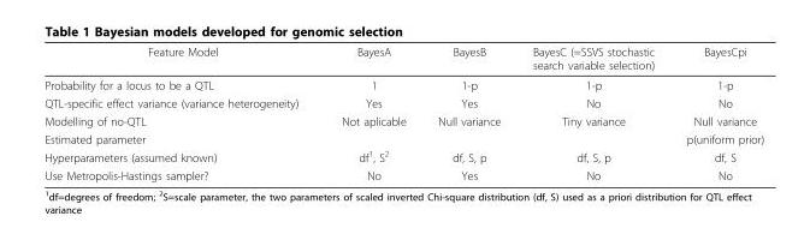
<table><thead><tr><td>Feature Model</td><td>BayesA</td><td>BayesB</td><td>BayesC (=SSVS stochastic search variable selection)</td><td>BayesCpi</td></tr></thead><tbody><tr><td>Probability for a locus to be a QTL</td><td>1</td><td>1-p</td><td>1-p</td><td>1-p</td></tr><tr><td>QTL-specific effect variance (variance heterogeneity)</td><td>Yes</td><td>Yes</td><td>No</td><td>No</td></tr><tr><td>Modelling of no-QTL</td><td>Not aplicable</td><td>Null variance</td><td>Tiny variance</td><td>Null variance</td></tr><tr><td>Estimated parameter</td><td></td><td></td><td></td><td>p(uniform prior)</td></tr><tr><td>Hyperparameters (assumed known)</td><td>df<sup>1</sup>, S<sup>2</sup></td><td>df, S, p</td><td>df, S, p</td><td>df, S</td></tr><tr><td>Use Metropolis-Hastings sampler?</td><td>No</td><td>Yes</td><td>No</td><td>No</td></tr></tbody></table>